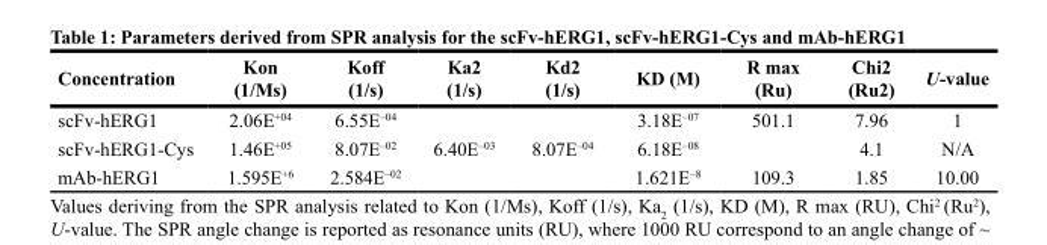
<table><thead><tr><td>Concentration</td><td>Kon (1/Ms)</td><td>Koff (1/s)</td><td>Ka2 (1/s)</td><td>Kd2 (1/s)</td><td>KD (M)</td><td>R max (Ru)</td><td>Chi2 (Ru2)</td><td>U-value</td></tr></thead><tbody><tr><td>scFv-hERG1</td><td>2.06E<sup>+04</sup></td><td>6.55E<sup>–04</sup></td><td></td><td></td><td>3.18E<sup>–07</sup></td><td>501.1</td><td>7.96</td><td>1</td></tr><tr><td>scFv-hERG1-Cys</td><td>1.46E<sup>+05</sup></td><td>8.07E<sup>–02</sup></td><td>6.40E<sup>–03</sup></td><td>8.07E<sup>–04</sup></td><td>6.18E<sup>–08</sup></td><td></td><td>4.1</td><td>N/A</td></tr><tr><td>mAb-hERG1</td><td>1.595E<sup>+6</sup></td><td>2.584E<sup>–02</sup></td><td></td><td></td><td>1.621E<sup>–8</sup></td><td>109.3</td><td>1.85</td><td>10.00</td></tr></tbody></table>